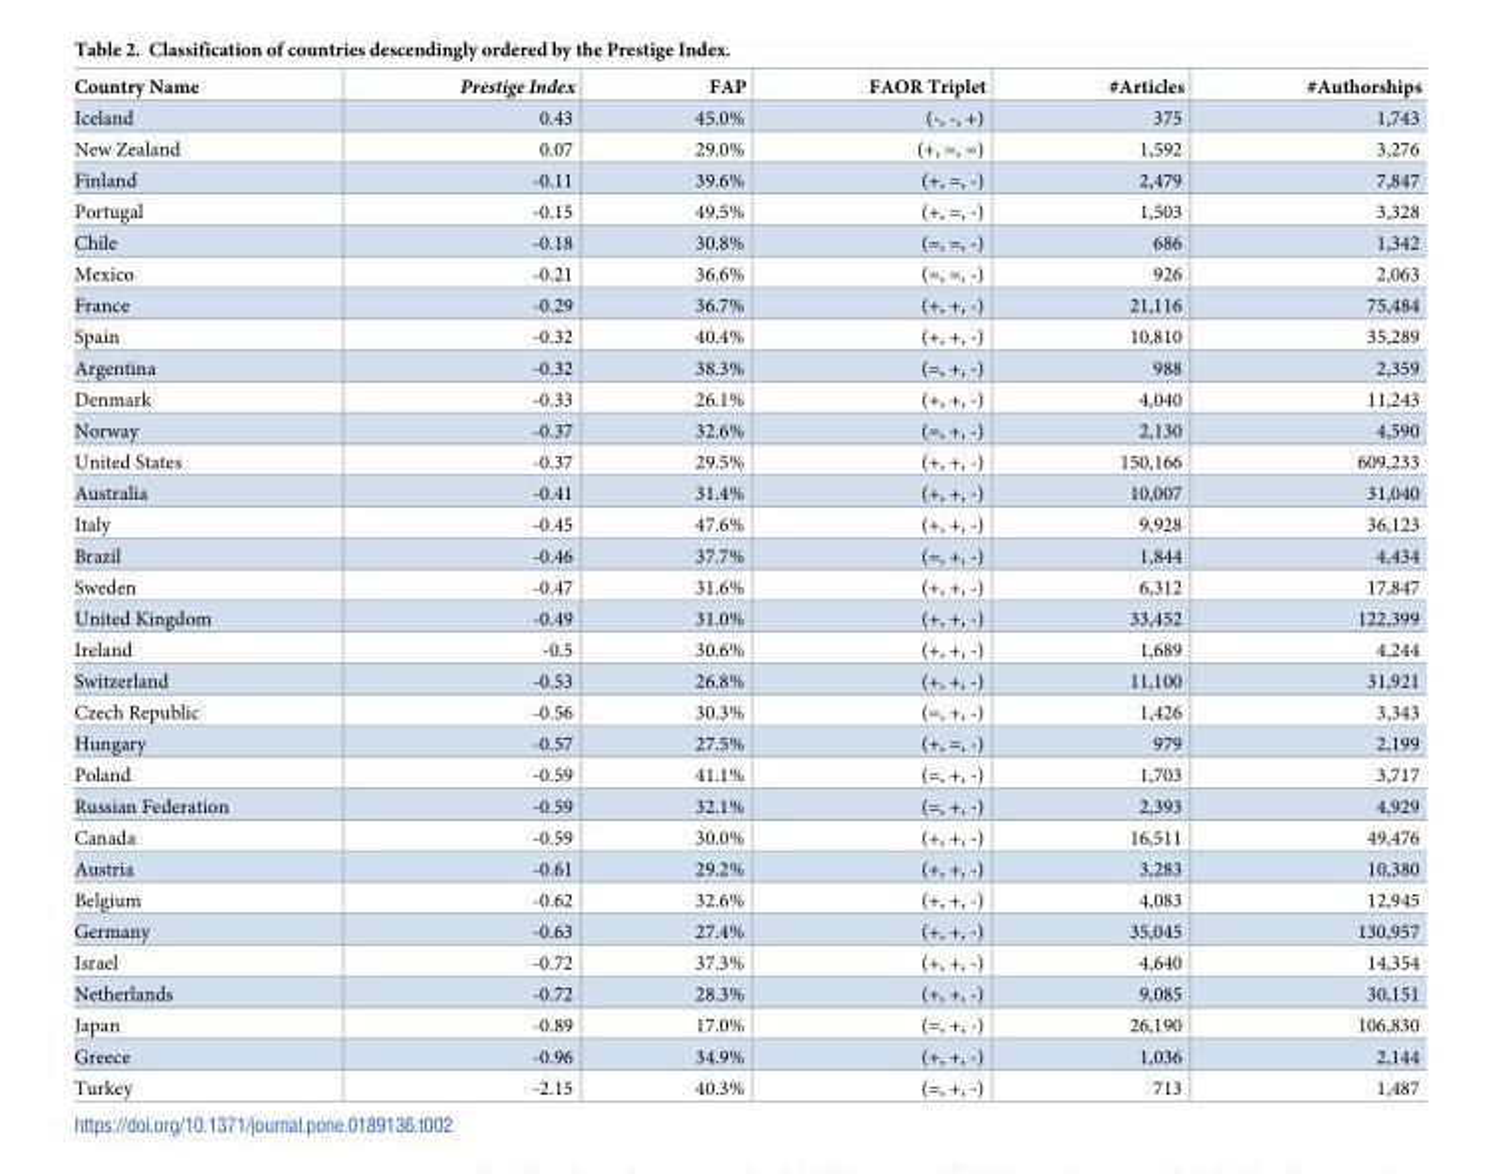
<table><thead><tr><td>Country Name</td><td>Prestige Index</td><td>FAP</td><td>FAOR Triplet</td><td>#Articles</td><td>#Authorships</td></tr></thead><tbody><tr><td>Iceland</td><td>0.43</td><td>45.0%</td><td>(-, -, +)</td><td>375</td><td>1,743</td></tr><tr><td>New Zealand</td><td>0.07</td><td>29.0%</td><td>(+, =, =)</td><td>1,592</td><td>3,276</td></tr><tr><td>Finland</td><td>-0.11</td><td>39.6%</td><td>(+, =, -)</td><td>2,479</td><td>7,847</td></tr><tr><td>Portugal</td><td>-0.15</td><td>49.5%</td><td>(+, =, -)</td><td>1,503</td><td>3,328</td></tr><tr><td>Chile</td><td>-0.18</td><td>30.8%</td><td>(=, =, -)</td><td>686</td><td>1,342</td></tr><tr><td>Mexico</td><td>-0.21</td><td>36.6%</td><td>(=, =, -)</td><td>926</td><td>2,063</td></tr><tr><td>France</td><td>-0.29</td><td>36.7%</td><td>(+, +, -)</td><td>21,116</td><td>75,484</td></tr><tr><td>Spain</td><td>-0.32</td><td>40.4%</td><td>(+, +, -)</td><td>10,810</td><td>35,289</td></tr><tr><td>Argentina</td><td>-0.32</td><td>38.3%</td><td>(=, +, -)</td><td>988</td><td>2,359</td></tr><tr><td>Denmark</td><td>-0.33</td><td>26.1%</td><td>(+, +, -)</td><td>4,040</td><td>11,243</td></tr><tr><td>Norway</td><td>-0.37</td><td>32.6%</td><td>(=, +, -)</td><td>2,130</td><td>4,590</td></tr><tr><td>United States</td><td>-0.37</td><td>29.5%</td><td>(+, +, -)</td><td>150,166</td><td>609,233</td></tr><tr><td>Australia</td><td>-0.41</td><td>31.4%</td><td>(+, +, -)</td><td>10,007</td><td>31,040</td></tr><tr><td>Italy</td><td>-0.45</td><td>47.6%</td><td>(+, +, -)</td><td>9,928</td><td>36,123</td></tr><tr><td>Brazil</td><td>-0.46</td><td>37.7%</td><td>(=, +, -)</td><td>1,844</td><td>4,434</td></tr><tr><td>Sweden</td><td>-0.47</td><td>31.6%</td><td>(+, +, -)</td><td>6,312</td><td>17,847</td></tr><tr><td>United Kingdom</td><td>-0.49</td><td>31.0%</td><td>(+, +, -)</td><td>33,452</td><td>122,399</td></tr><tr><td>Ireland</td><td>-0.5</td><td>30.6%</td><td>(+, +, -)</td><td>1,689</td><td>4,244</td></tr><tr><td>Switzerland</td><td>-0.53</td><td>26.8%</td><td>(+, +, -)</td><td>11,100</td><td>31,921</td></tr><tr><td>Czech Republic</td><td>-0.56</td><td>30.3%</td><td>(=, +, -)</td><td>1,426</td><td>3,343</td></tr><tr><td>Hungary</td><td>-0.57</td><td>27.5%</td><td>(+, =, -)</td><td>979</td><td>2,199</td></tr><tr><td>Poland</td><td>-0.59</td><td>41.1%</td><td>(=, +, -)</td><td>1,703</td><td>3,717</td></tr><tr><td>Russian Federation</td><td>-0.59</td><td>32.1%</td><td>(=, +, -)</td><td>2,393</td><td>4,929</td></tr><tr><td>Canada</td><td>-0.59</td><td>30.0%</td><td>(+, +, -)</td><td>16,511</td><td>49,476</td></tr><tr><td>Austria</td><td>-0.61</td><td>29.2%</td><td>(+, +, -)</td><td>3,283</td><td>10,380</td></tr><tr><td>Belgium</td><td>-0.62</td><td>32.6%</td><td>(+, +, -)</td><td>4,083</td><td>12,945</td></tr><tr><td>Germany</td><td>-0.63</td><td>27.4%</td><td>(+, +, -)</td><td>35,045</td><td>130,957</td></tr><tr><td>Israel</td><td>-0.72</td><td>37.3%</td><td>(+, +, -)</td><td>4,640</td><td>14,354</td></tr><tr><td>Netherlands</td><td>-0.72</td><td>28.3%</td><td>(+, +, -)</td><td>9,085</td><td>30,151</td></tr><tr><td>Japan</td><td>-0.89</td><td>17.0%</td><td>(=, +, -)</td><td>26,190</td><td>106,830</td></tr><tr><td>Greece</td><td>-0.96</td><td>34.9%</td><td>(+, +, -)</td><td>1,036</td><td>2,144</td></tr><tr><td>Turkey</td><td>-2.15</td><td>40.3%</td><td>(=, +, -)</td><td>713</td><td>1,487</td></tr></tbody></table>